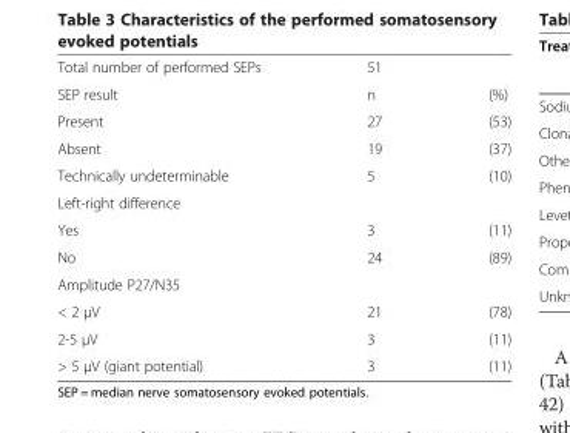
<table><tbody><tr><td>Total number of performed SEPs</td><td>51</td><td></td></tr><tr><td>SEP result</td><td>n</td><td>(%)</td></tr><tr><td>Present</td><td>27</td><td>(53)</td></tr><tr><td>Absent</td><td>19</td><td>(37)</td></tr><tr><td>Technically undeterminable</td><td>5</td><td>(10)</td></tr><tr><td colspan="3">Left-right difference</td></tr><tr><td>Yes</td><td>3</td><td>(11)</td></tr><tr><td>No</td><td>24</td><td>(89)</td></tr><tr><td colspan="3">Amplitude P27/N35</td></tr><tr><td>&lt; 2 μV</td><td>21</td><td>(78)</td></tr><tr><td>2-5 μV</td><td>3</td><td>(11)</td></tr><tr><td>&gt; 5 μV (giant potential)</td><td>3</td><td>(11)</td></tr></tbody></table>